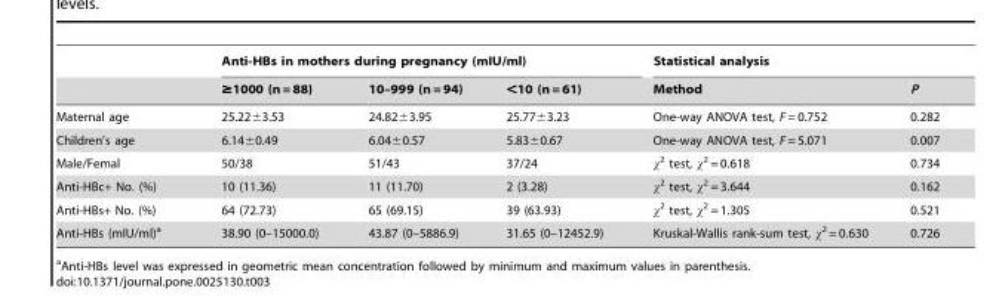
<table><thead><tr><td rowspan="2"></td><td colspan="3">Anti-HBs in mothers during pregnancy (mIU/ml)</td><td colspan="2">Statistical analysis</td></tr><tr><td>≥1000 (n = 88)</td><td>10–999 (n = 94)</td><td>&lt;10 (n = 61)</td><td>Method</td><td>P</td></tr></thead><tbody><tr><td>Maternal age</td><td>25.22±3.53</td><td>24.82±3.95</td><td>25.77±3.23</td><td>One-way ANOVA test, F = 0.752</td><td>0.282</td></tr><tr><td>Children’s age</td><td>6.14±0.49</td><td>6.04±0.57</td><td>5.83±0.67</td><td>One-way ANOVA test, F = 5.071</td><td>0.007</td></tr><tr><td>Male/Femal</td><td>50/38</td><td>51/43</td><td>37/24</td><td>χ<sup>2</sup> test, χ<sup>2</sup> = 0.618</td><td>0.734</td></tr><tr><td>Anti-HBc+ No. (%)</td><td>10 (11.36)</td><td>11 (11.70)</td><td>2 (3.28)</td><td>χ<sup>2</sup> test, χ<sup>2</sup> = 3.644</td><td>0.162</td></tr><tr><td>Anti-HBs+ No. (%)</td><td>64 (72.73)</td><td>65 (69.15)</td><td>39 (63.93)</td><td>χ<sup>2</sup> test, χ<sup>2</sup> = 1.305</td><td>0.521</td></tr><tr><td>Anti-HBs (mIU/ml)<sup>a</sup></td><td>38.90 (0–15000.0)</td><td>43.87 (0–5886.9)</td><td>31.65 (0–12452.9)</td><td>Kruskal-Wallis rank-sum test, χ<sup>2</sup> = 0.630</td><td>0.726</td></tr></tbody></table>